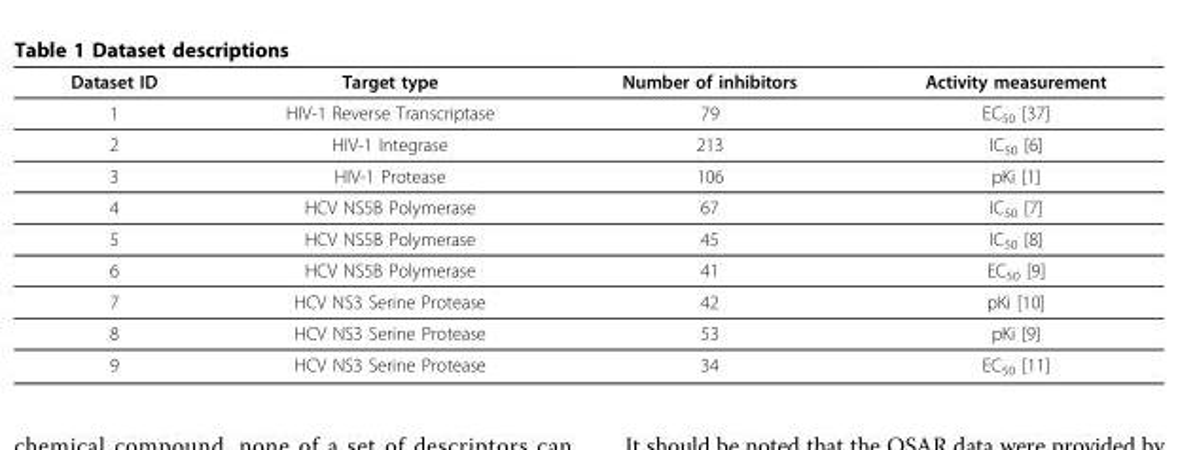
<table><thead><tr><td>Dataset ID</td><td>Target type</td><td>Number of inhibitors</td><td>Activity measurement</td></tr></thead><tbody><tr><td>1</td><td>HIV-1 Reverse Transcriptase</td><td>79</td><td>EC<sub>50</sub> [37]</td></tr><tr><td>2</td><td>HIV-1 Integrase</td><td>213</td><td>IC<sub>50</sub> [6]</td></tr><tr><td>3</td><td>HIV-1 Protease</td><td>106</td><td>pKi [1]</td></tr><tr><td>4</td><td>HCV NS5B Polymerase</td><td>67</td><td>IC<sub>50</sub> [7]</td></tr><tr><td>5</td><td>HCV NS5B Polymerase</td><td>45</td><td>IC<sub>50</sub> [8]</td></tr><tr><td>6</td><td>HCV NS5B Polymerase</td><td>41</td><td>EC<sub>50</sub> [9]</td></tr><tr><td>7</td><td>HCV NS3 Serine Protease</td><td>42</td><td>pKi [10]</td></tr><tr><td>8</td><td>HCV NS3 Serine Protease</td><td>53</td><td>pKi [9]</td></tr><tr><td>9</td><td>HCV NS3 Serine Protease</td><td>34</td><td>EC<sub>50</sub> [11]</td></tr></tbody></table>